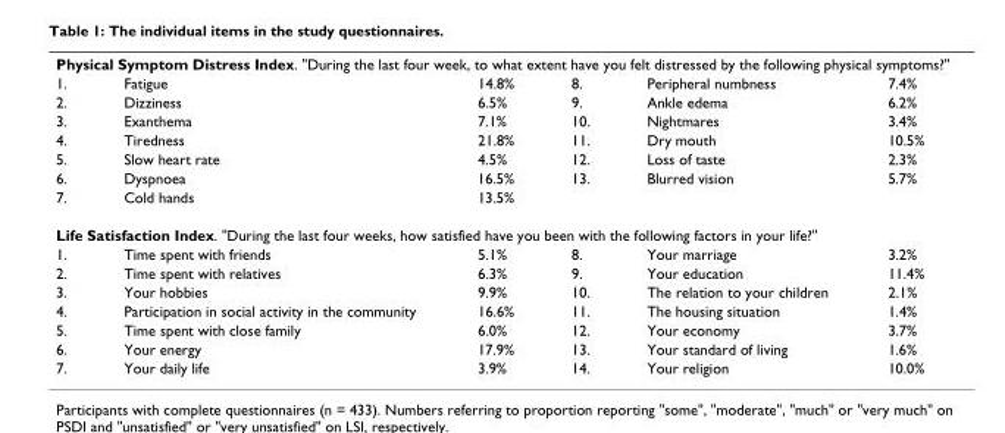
<table><tbody><tr><td colspan="6">Physical Symptom Distress Index. &quot;During the last four week, to what extent have you felt distressed by the following physical symptoms?&quot;</td></tr><tr><td>1.</td><td>Fatigue</td><td>14.8%</td><td>8.</td><td>Peripheral numbness</td><td>7.4%</td></tr><tr><td>2.</td><td>Dizziness</td><td>6.5%</td><td>9.</td><td>Ankle edema</td><td>6.2%</td></tr><tr><td>3.</td><td>Exanthema</td><td>7.1%</td><td>10.</td><td>Nightmares</td><td>3.4%</td></tr><tr><td>4.</td><td>Tiredness</td><td>21.8%</td><td>11.</td><td>Dry mouth</td><td>10.5%</td></tr><tr><td>5.</td><td>Slow heart rate</td><td>4.5%</td><td>12.</td><td>Loss of taste</td><td>2.3%</td></tr><tr><td>6.</td><td>Dyspnoea</td><td>16.5%</td><td>13.</td><td>Blurred vision</td><td>5.7%</td></tr><tr><td>7.</td><td>Cold hands</td><td>13.5%</td><td></td><td></td><td></td></tr><tr><td colspan="6">Life Satisfaction Index. &quot;During the last four weeks, how satisfied have you been with the following factors in your life?&quot;</td></tr><tr><td>1.</td><td>Time spent with friends</td><td>5.1%</td><td>8.</td><td>Your marriage</td><td>3.2%</td></tr><tr><td>2.</td><td>Time spent with relatives</td><td>6.3%</td><td>9.</td><td>Your education</td><td>11.4%</td></tr><tr><td>3.</td><td>Your hobbies</td><td>9.9%</td><td>10.</td><td>The relation to your children</td><td>2.1%</td></tr><tr><td>4.</td><td>Participation in social activity in the community</td><td>16.6%</td><td>11.</td><td>The housing situation</td><td>1.4%</td></tr><tr><td>5.</td><td>Time spent with close family</td><td>6.0%</td><td>12.</td><td>Your economy</td><td>3.7%</td></tr><tr><td>6.</td><td>Your energy</td><td>17.9%</td><td>13.</td><td>Your standard of living</td><td>1.6%</td></tr><tr><td>7.</td><td>Your daily life</td><td>3.9%</td><td>14.</td><td>Your religion</td><td>10.0%</td></tr></tbody></table>